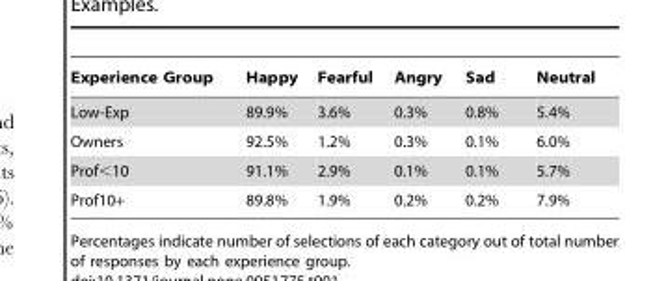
<table><thead><tr><td>Experience Group</td><td>Happy</td><td>Fearful</td><td>Angry</td><td>Sad</td><td>Neutral</td></tr></thead><tbody><tr><td>Low-Exp</td><td>89.9%</td><td>3.6%</td><td>0.3%</td><td>0.8%</td><td>5.4%</td></tr><tr><td>Owners</td><td>92.5%</td><td>1.2%</td><td>0.3%</td><td>0.1%</td><td>6.0%</td></tr><tr><td>Prof&lt;10</td><td>91.1%</td><td>2.9%</td><td>0.1%</td><td>0.1%</td><td>5.7%</td></tr><tr><td>Prof10+</td><td>89.8%</td><td>1.9%</td><td>0.2%</td><td>0.2%</td><td>7.9%</td></tr></tbody></table>